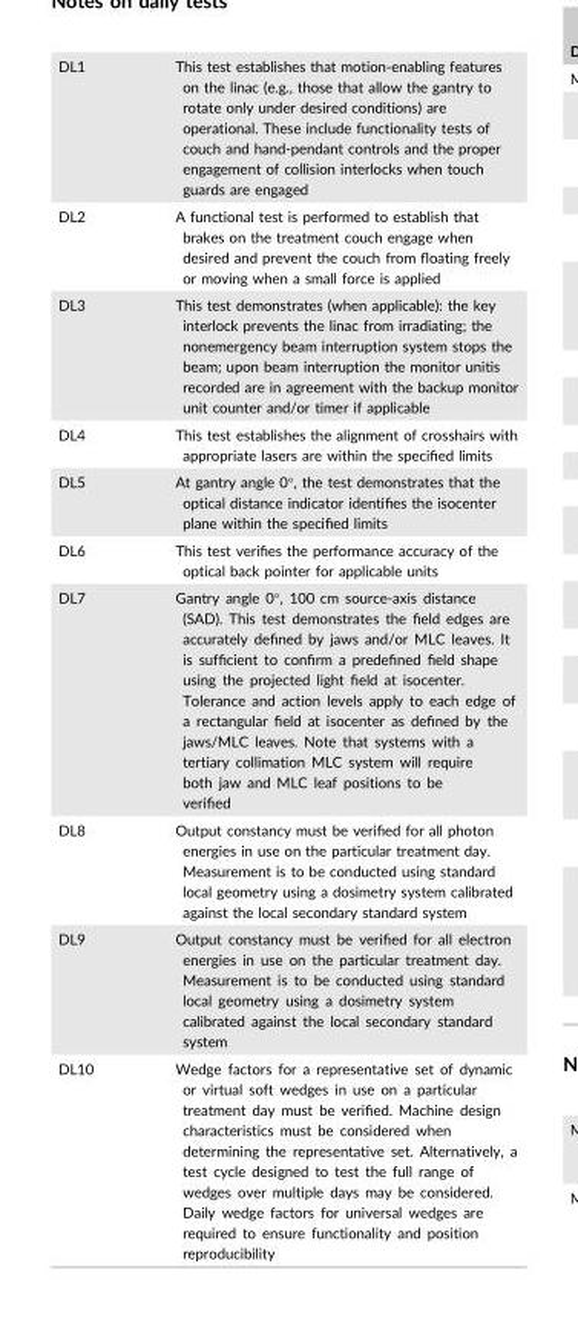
<table><tbody><tr><td>DL1</td><td>This test establishes that motion-enabling features on the linac (e.g., those that allow the gantry to rotate only under desired conditions) are operational. These include functionality tests of couch and hand-pendant controls and the proper engagement of collision interlocks when touch guards are engaged</td></tr><tr><td>DL2</td><td>A functional test is performed to establish that brakes on the treatment couch engage when desired and prevent the couch from floating freely or moving when a small force is applied</td></tr><tr><td>DL3</td><td>This test demonstrates (when applicable): the key interlock prevents the linac from irradiating; the nonemergency beam interruption system stops the beam; upon beam interruption the monitor unitis recorded are in agreement with the backup monitor unit counter and/or timer if applicable</td></tr><tr><td>DL4</td><td>This test establishes the alignment of crosshairs with appropriate lasers are within the specified limits</td></tr><tr><td>DL5</td><td>At gantry angle 0°, the test demonstrates that the optical distance indicator identifies the isocenter plane within the specified limits</td></tr><tr><td>DL6</td><td>This test verifies the performance accuracy of the optical back pointer for applicable units</td></tr><tr><td>DL7</td><td>Gantry angle 0°, 100 cm source-axis distance (SAD). This test demonstrates the field edges are accurately defined by jaws and/or MLC leaves. It is sufficient to confirm a predefined field shape using the projected light field at isocenter. Tolerance and action levels apply to each edge of a rectangular field at isocenter as defined by the jaws/MLC leaves. Note that systems with a tertiary collimation MLC system will require both jaw and MLC leaf positions to be verified</td></tr><tr><td>DL8</td><td>Output constancy must be verified for all photon energies in use on the particular treatment day. Measurement is to be conducted using standard local geometry using a dosimetry system calibrated against the local secondary standard system</td></tr><tr><td>DL9</td><td>Output constancy must be verified for all electron energies in use on the particular treatment day. Measurement is to be conducted using standard local geometry using a dosimetry system calibrated against the local secondary standard system</td></tr><tr><td>DL10</td><td>Wedge factors for a representative set of dynamic or virtual soft wedges in use on a particular treatment day must be verified. Machine design characteristics must be considered when determining the representative set. Alternatively, a test cycle designed to test the full range of wedges over multiple days may be considered. Daily wedge factors for universal wedges are required to ensure functionality and position reproducibility</td></tr></tbody></table>